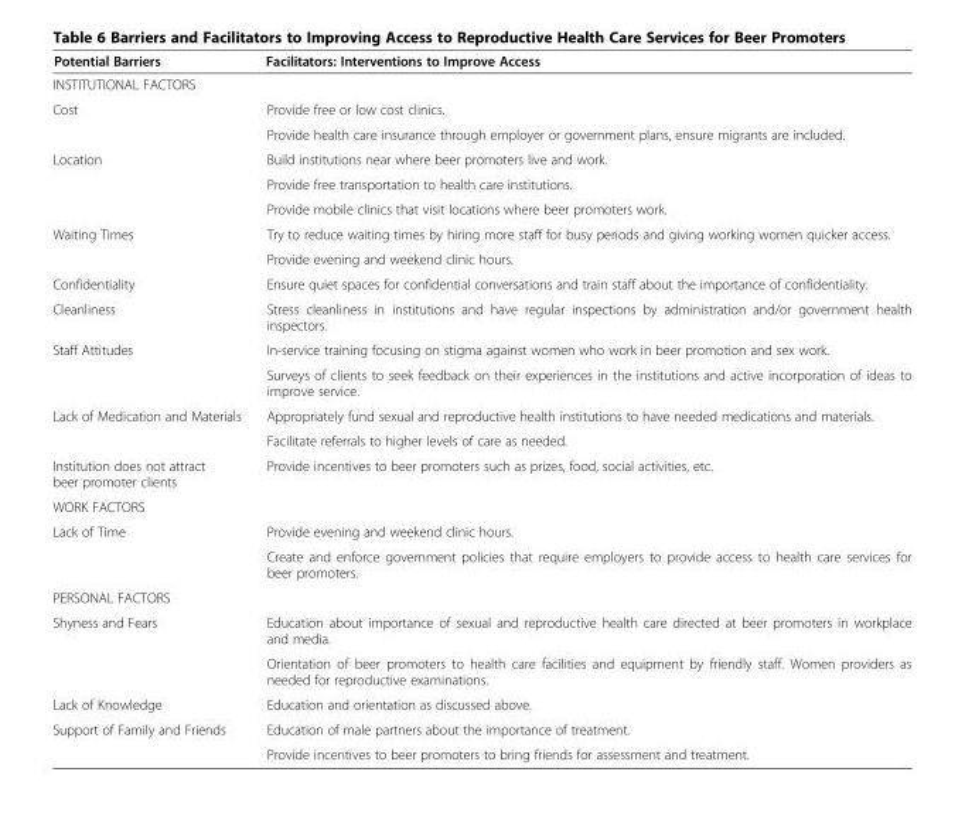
<table><thead><tr><td>Potential Barriers</td><td>Facilitators: Interventions to Improve Access</td></tr></thead><tbody><tr><td colspan="2">INSTITUTIONAL FACTORS</td></tr><tr><td rowspan="2">Cost</td><td>Provide free or low cost clinics.</td></tr><tr><td>Provide health care insurance through employer or government plans, ensure migrants are included.</td></tr><tr><td rowspan="3">Location</td><td>Build institutions near where beer promoters live and work.</td></tr><tr><td>Provide free transportation to health care institutions.</td></tr><tr><td>Provide mobile clinics that visit locations where beer promoters work.</td></tr><tr><td rowspan="2">Waiting Times</td><td>Try to reduce waiting times by hiring more staff for busy periods and giving working women quicker access.</td></tr><tr><td>Provide evening and weekend clinic hours.</td></tr><tr><td>Confidentiality</td><td>Ensure quiet spaces for confidential conversations and train staff about the importance of confidentiality.</td></tr><tr><td>Cleanliness</td><td>Stress cleanliness in institutions and have regular inspections by administration and/or government health inspectors.</td></tr><tr><td rowspan="2">Staff Attitudes</td><td>In-service training focusing on stigma against women who work in beer promotion and sex work.</td></tr><tr><td>Surveys of clients to seek feedback on their experiences in the institutions and active incorporation of ideas to improve service.</td></tr><tr><td rowspan="2">Lack of Medication and Materials</td><td>Appropriately fund sexual and reproductive health institutions to have needed medications and materials.</td></tr><tr><td>Facilitate referrals to higher levels of care as needed.</td></tr><tr><td>Institution does not attract beer promoter clients</td><td>Provide incentives to beer promoters such as prizes, food, social activities, etc.</td></tr><tr><td colspan="2">WORK FACTORS</td></tr><tr><td rowspan="2">Lack of Time</td><td>Provide evening and weekend clinic hours.</td></tr><tr><td>Create and enforce government policies that require employers to provide access to health care services for beer promoters.</td></tr><tr><td colspan="2">PERSONAL FACTORS</td></tr><tr><td rowspan="2">Shyness and Fears</td><td>Education about importance of sexual and reproductive health care directed at beer promoters in workplace and media.</td></tr><tr><td>Orientation of beer promoters to health care facilities and equipment by friendly staff. Women providers as needed for reproductive examinations.</td></tr><tr><td>Lack of Knowledge</td><td>Education and orientation as discussed above.</td></tr><tr><td rowspan="2">Support of Family and Friends</td><td>Education of male partners about the importance of treatment.</td></tr><tr><td>Provide incentives to beer promoters to bring friends for assessment and treatment.</td></tr></tbody></table>